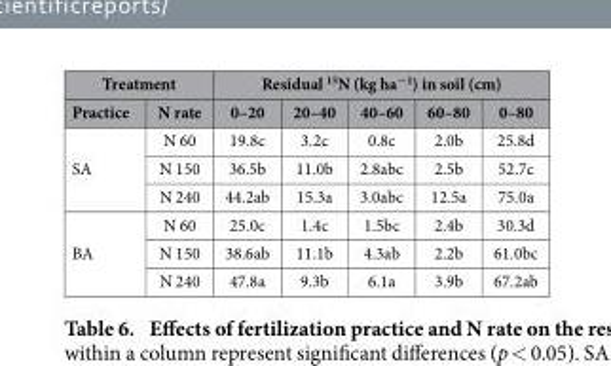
<table><thead><tr><td colspan="2">Treatment</td><td colspan="5">Residual <sup>15</sup>N (kg ha<sup>−1</sup>) in soil (cm)</td></tr><tr><td>Practice</td><td>N rate</td><td>0–20</td><td>20–40</td><td>40–60</td><td>60–80</td><td>0–80</td></tr></thead><tbody><tr><td rowspan="3">SA</td><td>N 60</td><td>19.8c</td><td>3.2c</td><td>0.8c</td><td>2.0b</td><td>25.8d</td></tr><tr><td>N 150</td><td>36.5b</td><td>11.0b</td><td>2.8abc</td><td>2.5b</td><td>52.7c</td></tr><tr><td>N 240</td><td>44.2ab</td><td>15.3a</td><td>3.0abc</td><td>12.5a</td><td>75.0a</td></tr><tr><td rowspan="3">BA</td><td>N 60</td><td>25.0c</td><td>1.4c</td><td>1.5bc</td><td>2.4b</td><td>30.3d</td></tr><tr><td>N 150</td><td>38.6ab</td><td>11.1b</td><td>4.3ab</td><td>2.2b</td><td>61.0bc</td></tr><tr><td>N 240</td><td>47.8a</td><td>9.3b</td><td>6.1a</td><td>3.9b</td><td>67.2ab</td></tr></tbody></table>